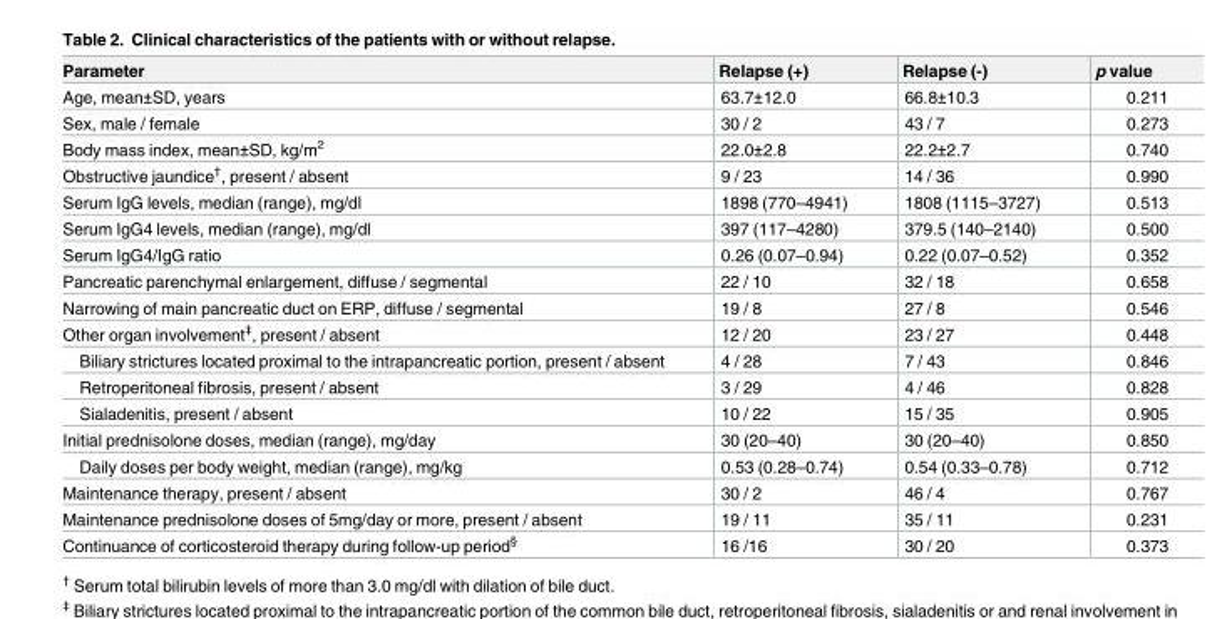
<table><thead><tr><td>Parameter</td><td>Relapse (+)</td><td>Relapse (-)</td><td>p value</td></tr></thead><tbody><tr><td>Age, mean±SD, years</td><td>63.7±12.0</td><td>66.8±10.3</td><td>0.211</td></tr><tr><td>Sex, male / female</td><td>30 / 2</td><td>43 / 7</td><td>0.273</td></tr><tr><td>Body mass index, mean±SD, kg/m<sup>2</sup></td><td>22.0±2.8</td><td>22.2±2.7</td><td>0.740</td></tr><tr><td>Obstructive jaundice<sup>†</sup>, present / absent</td><td>9 / 23</td><td>14 / 36</td><td>0.990</td></tr><tr><td>Serum IgG levels, median (range), mg/dl</td><td>1898 (770–4941)</td><td>1808 (1115–3727)</td><td>0.513</td></tr><tr><td>Serum IgG4 levels, median (range), mg/dl</td><td>397 (117–4280)</td><td>379.5 (140–2140)</td><td>0.500</td></tr><tr><td>Serum IgG4/IgG ratio</td><td>0.26 (0.07–0.94)</td><td>0.22 (0.07–0.52)</td><td>0.352</td></tr><tr><td>Pancreatic parenchymal enlargement, diffuse / segmental</td><td>22 / 10</td><td>32 / 18</td><td>0.658</td></tr><tr><td>Narrowing of main pancreatic duct on ERP, diffuse / segmental</td><td>19 / 8</td><td>27 / 8</td><td>0.546</td></tr><tr><td>Other organ involvement<sup>‡</sup>, present / absent</td><td>12 / 20</td><td>23 / 27</td><td>0.448</td></tr><tr><td>Biliary strictures located proximal to the intrapancreatic portion, present / absent</td><td>4 / 28</td><td>7 / 43</td><td>0.846</td></tr><tr><td>Retroperitoneal fibrosis, present / absent</td><td>3 / 29</td><td>4 / 46</td><td>0.828</td></tr><tr><td>Sialadenitis, present / absent</td><td>10 / 22</td><td>15 / 35</td><td>0.905</td></tr><tr><td>Initial prednisolone doses, median (range), mg/day</td><td>30 (20–40)</td><td>30 (20–40)</td><td>0.850</td></tr><tr><td>Daily doses per body weight, median (range), mg/kg</td><td>0.53 (0.28–0.74)</td><td>0.54 (0.33–0.78)</td><td>0.712</td></tr><tr><td>Maintenance therapy, present / absent</td><td>30 / 2</td><td>46 / 4</td><td>0.767</td></tr><tr><td>Maintenance prednisolone doses of 5mg/day or more, present / absent</td><td>19 / 11</td><td>35 / 11</td><td>0.231</td></tr><tr><td>Continuance of corticosteroid therapy during follow-up period<sup>§</sup></td><td>16 /16</td><td>30 / 20</td><td>0.373</td></tr></tbody></table>